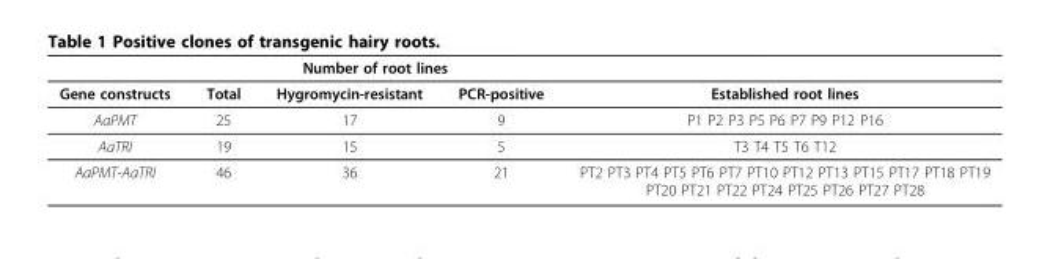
<table><thead><tr><td rowspan="2">Gene constructs</td><td colspan="3">Number of root lines</td><td rowspan="2">Established root lines</td></tr><tr><td>Total</td><td>Hygromycin-resistant</td><td>PCR-positive</td></tr></thead><tbody><tr><td>AaPMT</td><td>25</td><td>17</td><td>9</td><td>P1 P2 P3 P5 P6 P7 P9 P12 P16</td></tr><tr><td>AaTRI</td><td>19</td><td>15</td><td>5</td><td>T3 T4 T5 T6 T12</td></tr><tr><td>AaPMT-AaTRI</td><td>46</td><td>36</td><td>21</td><td>PT2 PT3 PT4 PT5 PT6 PT7 PT10 PT12 PT13 PT15 PT17 PT18 PT19 PT20 PT21 PT22 PT24 PT25 PT26 PT27 PT28</td></tr></tbody></table>